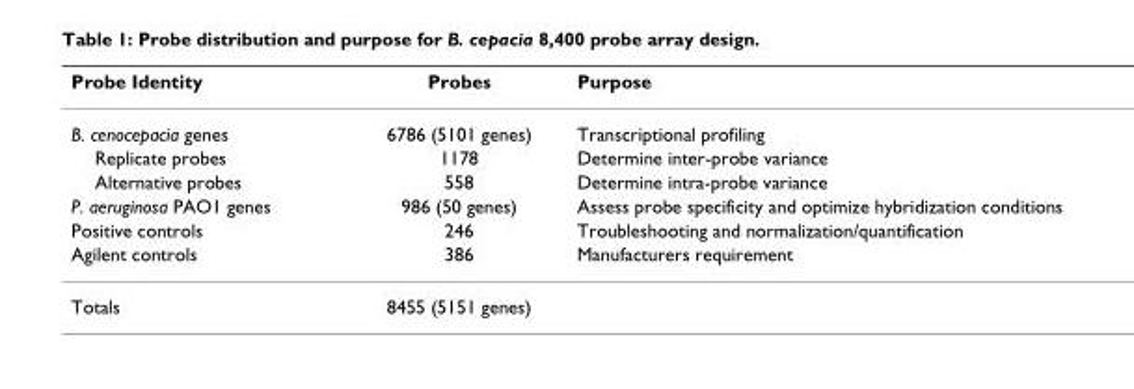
<table><thead><tr><td>Probe Identity</td><td>Probes</td><td>Purpose</td></tr></thead><tbody><tr><td>B. cenocepacia genes</td><td>6786 (5101 genes)</td><td>Transcriptional profiling</td></tr><tr><td>Replicate probes</td><td>1178</td><td>Determine inter-probe variance</td></tr><tr><td>Alternative probes</td><td>558</td><td>Determine intra-probe variance</td></tr><tr><td>P. aeruginosa PAO1 genes</td><td>986 (50 genes)</td><td>Assess probe specificity and optimize hybridization conditions</td></tr><tr><td>Positive controls</td><td>246</td><td>Troubleshooting and normalization/quantification</td></tr><tr><td>Agilent controls</td><td>386</td><td>Manufacturers requirement</td></tr><tr><td>Totals</td><td>8455 (5151 genes)</td><td></td></tr></tbody></table>